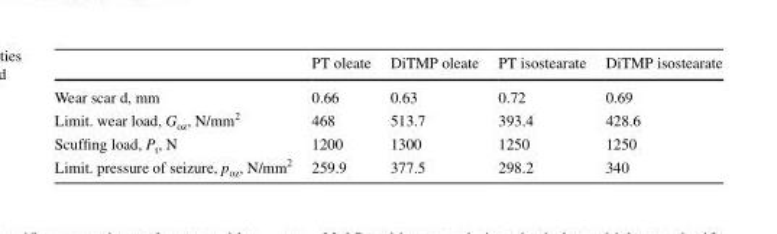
<table><thead><tr><td></td><td>PT oleate</td><td>DiTMP oleate</td><td>PT isostearate</td><td>DiTMP isostearate</td></tr></thead><tbody><tr><td>Wear scar d, mm</td><td>0.66</td><td>0.63</td><td>0.72</td><td>0.69</td></tr><tr><td>Limit. wear load, G<sub>oz</sub>, N/mm<sup>2</sup></td><td>468</td><td>513.7</td><td>393.4</td><td>428.6</td></tr><tr><td>Scuffing load, P<sub>t</sub>, N</td><td>1200</td><td>1300</td><td>1250</td><td>1250</td></tr><tr><td>Limit. pressure of seizure, p<sub>oz</sub>, N/mm<sup>2</sup></td><td>259.9</td><td>377.5</td><td>298.2</td><td>340</td></tr></tbody></table>